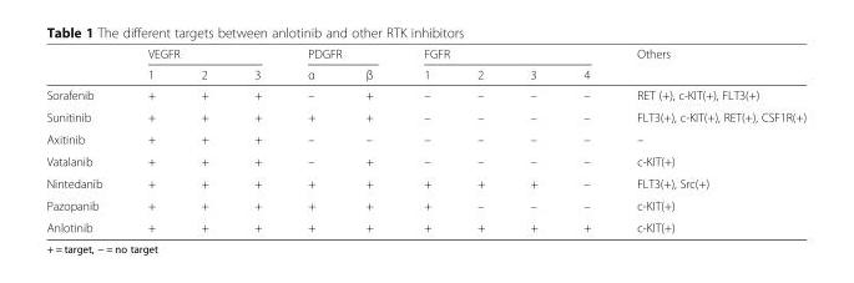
<table><thead><tr><td rowspan="2"></td><td colspan="3">VEGFR</td><td colspan="2">PDGFR</td><td colspan="4">FGFR</td><td rowspan="2">Others</td></tr><tr><td>1</td><td>2</td><td>3</td><td>α</td><td>β</td><td>1</td><td>2</td><td>3</td><td>4</td></tr></thead><tbody><tr><td>Sorafenib</td><td>+</td><td>+</td><td>+</td><td>–</td><td>+</td><td>–</td><td>–</td><td>–</td><td>–</td><td>RET (+), c-KIT(+), FLT3(+)</td></tr><tr><td>Sunitinib</td><td>+</td><td>+</td><td>+</td><td>+</td><td>+</td><td>–</td><td>–</td><td>–</td><td>–</td><td>FLT3(+), c-KIT(+), RET(+), CSF1R(+)</td></tr><tr><td>Axitinib</td><td>+</td><td>+</td><td>+</td><td>–</td><td>–</td><td>–</td><td>–</td><td>–</td><td>–</td><td>–</td></tr><tr><td>Vatalanib</td><td>+</td><td>+</td><td>+</td><td>–</td><td>+</td><td>–</td><td>–</td><td>–</td><td>–</td><td>c-KIT(+)</td></tr><tr><td>Nintedanib</td><td>+</td><td>+</td><td>+</td><td>+</td><td>+</td><td>+</td><td>+</td><td>+</td><td>–</td><td>FLT3(+), Src(+)</td></tr><tr><td>Pazopanib</td><td>+</td><td>+</td><td>+</td><td>+</td><td>+</td><td>+</td><td>–</td><td>–</td><td>–</td><td>c-KIT(+)</td></tr><tr><td>Anlotinib</td><td>+</td><td>+</td><td>+</td><td>+</td><td>+</td><td>+</td><td>+</td><td>+</td><td>+</td><td>c-KIT(+)</td></tr></tbody></table>